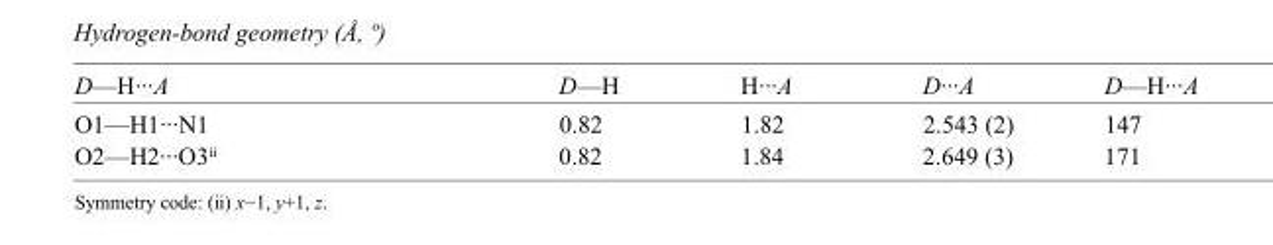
<table><tbody><tr><td>D—H···A</td><td>D—H</td><td>H···A</td><td>D···A</td><td>D—H···A</td></tr><tr><td>O1—H1···N1</td><td>0.82</td><td>1.82</td><td>2.543 (2)</td><td>147</td></tr><tr><td>O2—H2···O3<sup>ii</sup></td><td>0.82</td><td>1.84</td><td>2.649 (3)</td><td>171</td></tr></tbody></table>